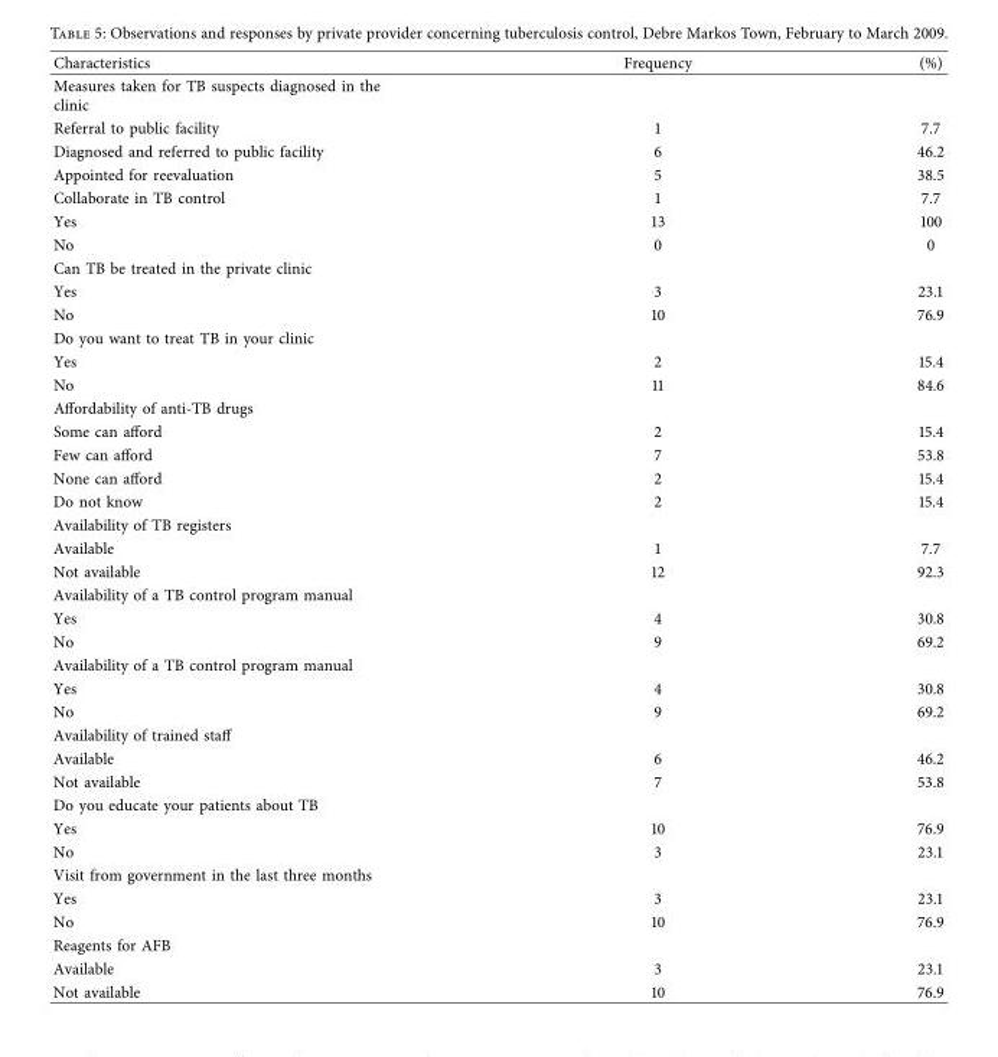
<table><thead><tr><td>Characteristics</td><td>Frequency</td><td>(%)</td></tr></thead><tbody><tr><td colspan="3">Measures taken for TB suspects diagnosed in the clinic</td></tr><tr><td>Referral to public facility</td><td>1</td><td>7.7</td></tr><tr><td>Diagnosed and referred to public facility</td><td>6</td><td>46.2</td></tr><tr><td>Appointed for reevaluation</td><td>5</td><td>38.5</td></tr><tr><td>Collaborate in TB control</td><td>1</td><td>7.7</td></tr><tr><td>Yes</td><td>13</td><td>100</td></tr><tr><td>No</td><td>0</td><td>0</td></tr><tr><td colspan="3">Can TB be treated in the private clinic</td></tr><tr><td>Yes</td><td>3</td><td>23.1</td></tr><tr><td>No</td><td>10</td><td>76.9</td></tr><tr><td colspan="3">Do you want to treat TB in your clinic</td></tr><tr><td>Yes</td><td>2</td><td>15.4</td></tr><tr><td>No</td><td>11</td><td>84.6</td></tr><tr><td colspan="3">Afordability of anti-TB drugs</td></tr><tr><td>Some can aford</td><td>2</td><td>15.4</td></tr><tr><td>Few can aford</td><td>7</td><td>53.8</td></tr><tr><td>None can aford</td><td>2</td><td>15.4</td></tr><tr><td>Do not know</td><td>2</td><td>15.4</td></tr><tr><td colspan="3">Availability of TB registers</td></tr><tr><td>Available</td><td>1</td><td>7.7</td></tr><tr><td>Not available</td><td>12</td><td>92.3</td></tr><tr><td colspan="3">Availability of a TB control program manual</td></tr><tr><td>Yes</td><td>4</td><td>30.8</td></tr><tr><td>No</td><td>9</td><td>69.2</td></tr><tr><td colspan="3">Availability of a TB control program manual</td></tr><tr><td>Yes</td><td>4</td><td>30.8</td></tr><tr><td>No</td><td>9</td><td>69.2</td></tr><tr><td colspan="3">Availability of trained staf</td></tr><tr><td>Available</td><td>6</td><td>46.2</td></tr><tr><td>Not available</td><td>7</td><td>53.8</td></tr><tr><td colspan="3">Do you educate your patients about TB</td></tr><tr><td>Yes</td><td>10</td><td>76.9</td></tr><tr><td>No</td><td>3</td><td>23.1</td></tr><tr><td colspan="3">Visit from government in the last three months</td></tr><tr><td>Yes</td><td>3</td><td>23.1</td></tr><tr><td>No</td><td>10</td><td>76.9</td></tr><tr><td colspan="3">Reagents for AFB</td></tr><tr><td>Available</td><td>3</td><td>23.1</td></tr><tr><td>Not available</td><td>10</td><td>76.9</td></tr></tbody></table>